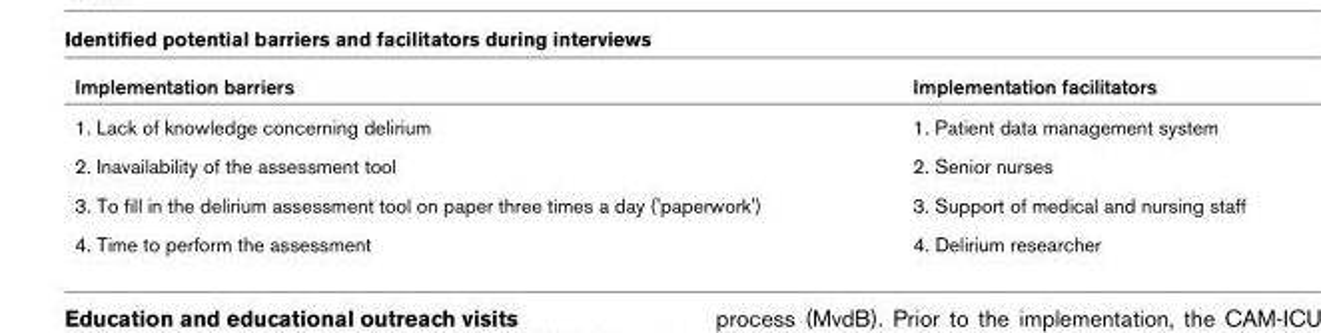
<table><thead><tr><td>Implementation barriers</td><td>Implementation facilitators</td></tr></thead><tbody><tr><td>1. Lack of knowledge concerning delirium</td><td>1. Patient data management system</td></tr><tr><td>2. Inavailability of the assessment tool</td><td>2. Senior nurses</td></tr><tr><td>3. To fill in the delirium assessment tool on paper three times a day (&#x27;paperwork&#x27;)</td><td>3. Support of medical and nursing staff</td></tr><tr><td>4. Time to perform the assessment</td><td>4. Delirium researcher</td></tr></tbody></table>